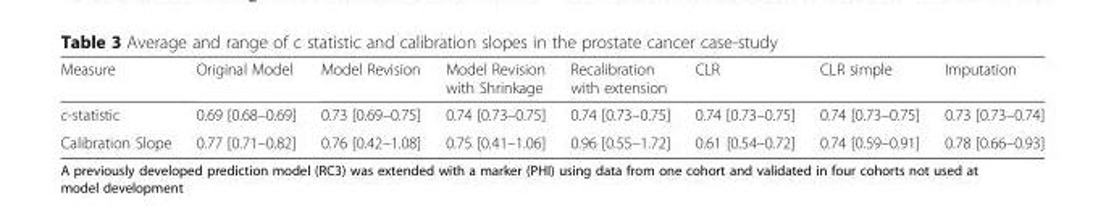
<table><thead><tr><td>Measure</td><td>Original Model</td><td>Model Revision</td><td>Model Revision with Shrinkage</td><td>Recalibration with extension</td><td>CLR</td><td>CLR simple</td><td>Imputation</td></tr></thead><tbody><tr><td>c-statistic</td><td>0.69 [0.68–0.69]</td><td>0.73 [0.69–0.75]</td><td>0.74 [0.73–0.75]</td><td>0.74 [0.73–0.75]</td><td>0.74 [0.73–0.75]</td><td>0.74 [0.73–0.75]</td><td>0.73 [0.73–0.74]</td></tr><tr><td>Calibration Slope</td><td>0.77 [0.71–0.82]</td><td>0.76 [0.42–1.08]</td><td>0.75 [0.41–1.06]</td><td>0.96 [0.55–1.72]</td><td>0.61 [0.54–0.72]</td><td>0.74 [0.59–0.91]</td><td>0.78 [0.66–0.93]</td></tr></tbody></table>